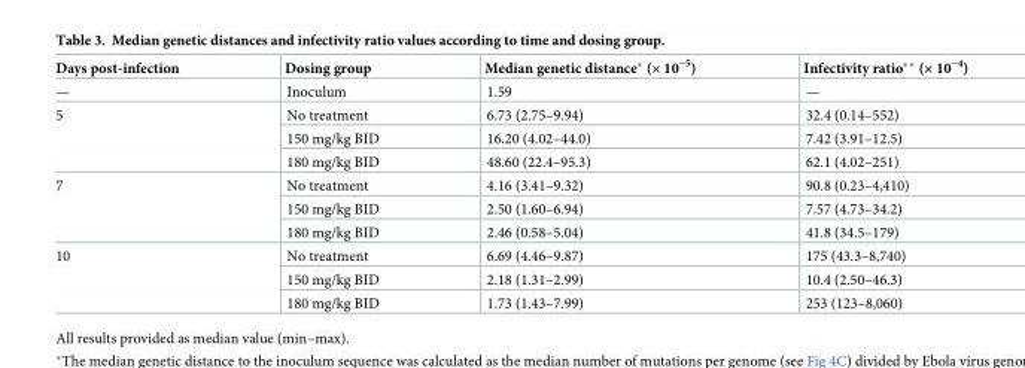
<table><thead><tr><td>Days post-infection</td><td>Dosing group</td><td>Median genetic distance* (× 10<sup>−5</sup>)</td><td>Infectivity ratio** (× 10<sup>−4</sup>)</td></tr></thead><tbody><tr><td>—</td><td>Inoculum</td><td>1.59</td><td>—</td></tr><tr><td rowspan="3">5</td><td>No treatment</td><td>6.73 (2.75–9.94)</td><td>32.4 (0.14–552)</td></tr><tr><td>150 mg/kg BID</td><td>16.20 (4.02–44.0)</td><td>7.42 (3.91–12.5)</td></tr><tr><td>180 mg/kg BID</td><td>48.60 (22.4–95.3)</td><td>62.1 (4.02–251)</td></tr><tr><td rowspan="3">7</td><td>No treatment</td><td>4.16 (3.41–9.32)</td><td>90.8 (0.23–4,410)</td></tr><tr><td>150 mg/kg BID</td><td>2.50 (1.60–6.94)</td><td>7.57 (4.73–34.2)</td></tr><tr><td>180 mg/kg BID</td><td>2.46 (0.58–5.04)</td><td>41.8 (34.5–179)</td></tr><tr><td rowspan="3">10</td><td>No treatment</td><td>6.69 (4.46–9.87)</td><td>175 (43.3–8,740)</td></tr><tr><td>150 mg/kg BID</td><td>2.18 (1.31–2.99)</td><td>10.4 (2.50–46.3)</td></tr><tr><td>180 mg/kg BID</td><td>1.73 (1.43–7.99)</td><td>253 (123–8,060)</td></tr></tbody></table>